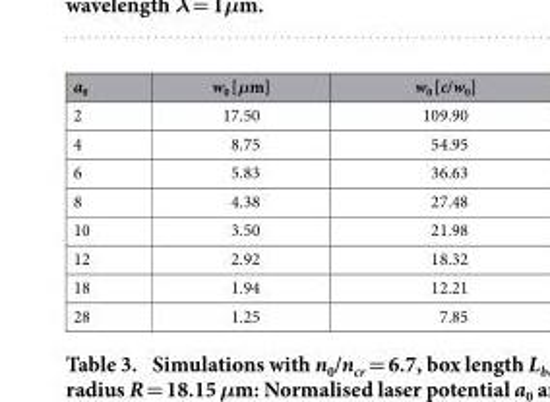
<table><thead><tr><td>a<sub>0</sub></td><td>w<sub>0</sub> [μm]</td><td>w<sub>0</sub> [c/w<sub>0</sub>]</td></tr></thead><tbody><tr><td>2</td><td>17.50</td><td>109.90</td></tr><tr><td>4</td><td>8.75</td><td>54.95</td></tr><tr><td>6</td><td>5.83</td><td>36.63</td></tr><tr><td>8</td><td>4.38</td><td>27.48</td></tr><tr><td>10</td><td>3.50</td><td>21.98</td></tr><tr><td>12</td><td>2.92</td><td>18.32</td></tr><tr><td>18</td><td>1.94</td><td>12.21</td></tr><tr><td>28</td><td>1.25</td><td>7.85</td></tr></tbody></table>